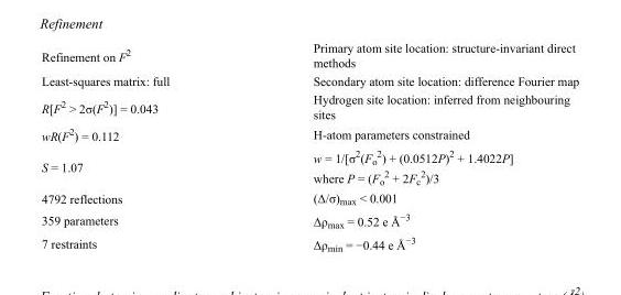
<table><tbody><tr><td>Refinement on F<sup>2</sup></td><td>Primary atom site location: structure-invariant direct methods</td></tr><tr><td>Least-squares matrix: full</td><td>Secondary atom site location: difference Fourier map</td></tr><tr><td>R[F<sup>2</sup> &gt; 2σ(F<sup>2</sup>)] = 0.043</td><td>Hydrogen site location: inferred from neighbouring sites</td></tr><tr><td>wR(F<sup>2</sup>) = 0.112</td><td>H-atom parameters constrained</td></tr><tr><td>S = 1.07</td><td>w = 1/[σ<sup>2</sup>(F<sub>o</sub> <sup>2</sup>) + (0.0512P)<sup>2</sup> + 1.4022P] where P = (F<sub>o</sub> <sup>2</sup> + 2F<sub>c</sub> <sup>2</sup>)/3</td></tr><tr><td>4792 reflections</td><td>(Δ/σ)<sub>max</sub> &lt; 0.001</td></tr><tr><td>359 parameters</td><td>Δρ<sub>max</sub> = 0.52 e Å<sup>−3</sup></td></tr><tr><td>7 restraints</td><td>Δρ<sub>min</sub> = −0.44 e Å<sup>−3</sup></td></tr></tbody></table>